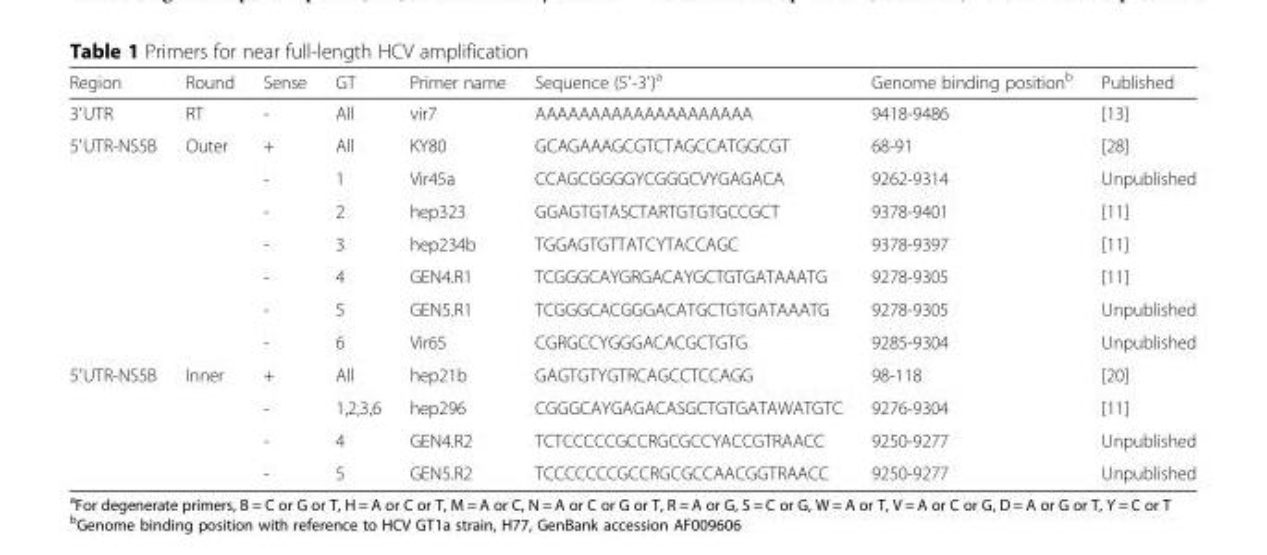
<table><thead><tr><td>Region</td><td>Round</td><td>Sense</td><td>GT</td><td>Primer name</td><td>Sequence (5′-3′)<sup>a</sup></td><td>Genome binding position<sup>b</sup></td><td>Published</td></tr></thead><tbody><tr><td>3′UTR</td><td>RT</td><td>-</td><td>All</td><td>vir7</td><td>AAAAAAAAAAAAAAAAAAAA</td><td>9418-9486</td><td>[13]</td></tr><tr><td rowspan="7">5′UTR-NS5B</td><td>Outer</td><td>+</td><td>All</td><td>KY80</td><td>GCAGAAAGCGTCTAGCCATGGCGT</td><td>68-91</td><td>[28]</td></tr><tr><td></td><td>-</td><td>1</td><td>Vir45a</td><td>CCAGCGGGGYCGGGCVYGAGACA</td><td>9262-9314</td><td>Unpublished</td></tr><tr><td></td><td>-</td><td>2</td><td>hep323</td><td>GGAGTGTASCTARTGTGTGCCGCT</td><td>9378-9401</td><td>[11]</td></tr><tr><td></td><td>-</td><td>3</td><td>hep234b</td><td>TGGAGTGTTATCYTACCAGC</td><td>9378-9397</td><td>[11]</td></tr><tr><td></td><td>-</td><td>4</td><td>GEN4.R1</td><td>TCGGGCAYGRGACAYGCTGTGATAAATG</td><td>9278-9305</td><td>[11]</td></tr><tr><td></td><td>-</td><td>5</td><td>GEN5.R1</td><td>TCGGGCACGGGACATGCTGTGATAAATG</td><td>9278-9305</td><td>Unpublished</td></tr><tr><td></td><td>-</td><td>6</td><td>Vir65</td><td>CGRGCCYGGGACACGCTGTG</td><td>9285-9304</td><td>Unpublished</td></tr><tr><td rowspan="4">5′UTR-NS5B</td><td>Inner</td><td>+</td><td>All</td><td>hep21b</td><td>GAGTGTYGTRCAGCCTCCAGG</td><td>98-118</td><td>[20]</td></tr><tr><td></td><td>-</td><td>1,2,3,6</td><td>hep296</td><td>CGGGCAYGAGACASGCTGTGATAWATGTC</td><td>9276-9304</td><td>[11]</td></tr><tr><td></td><td>-</td><td>4</td><td>GEN4.R2</td><td>TCTCCCCCGCCRGCGCCYACCGTRAACC</td><td>9250-9277</td><td>Unpublished</td></tr><tr><td></td><td>-</td><td>5</td><td>GEN5.R2</td><td>TCCCCCCCGCCRGCGCCAACGGTRAACC</td><td>9250-9277</td><td>Unpublished</td></tr></tbody></table>